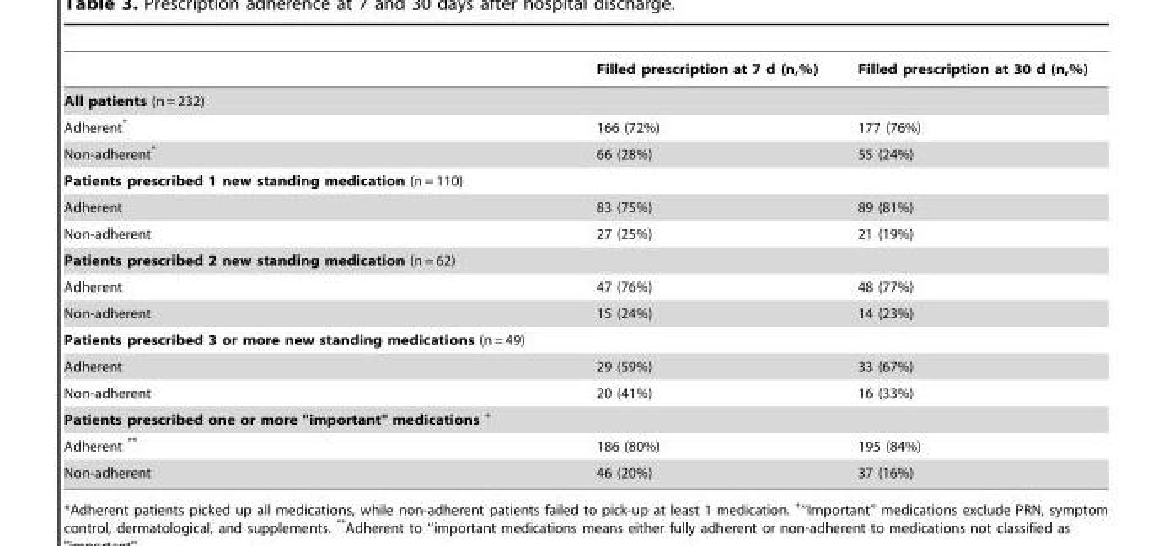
<table><thead><tr><td></td><td>Filled prescription at 7 d (n,%)</td><td>Filled prescription at 30 d (n,%)</td></tr></thead><tbody><tr><td colspan="3">All patients (n = 232)</td></tr><tr><td>Adherent*</td><td>166 (72%)</td><td>177 (76%)</td></tr><tr><td>Non-adherent*</td><td>66 (28%)</td><td>55 (24%)</td></tr><tr><td colspan="3">Patients prescribed 1 new standing medication (n = 110)</td></tr><tr><td>Adherent</td><td>83 (75%)</td><td>89 (81%)</td></tr><tr><td>Non-adherent</td><td>27 (25%)</td><td>21 (19%)</td></tr><tr><td colspan="3">Patients prescribed 2 new standing medication (n = 62)</td></tr><tr><td>Adherent</td><td>47 (76%)</td><td>48 (77%)</td></tr><tr><td>Non-adherent</td><td>15 (24%)</td><td>14 (23%)</td></tr><tr><td colspan="3">Patients prescribed 3 or more new standing medications (n = 49)</td></tr><tr><td>Adherent</td><td>29 (59%)</td><td>33 (67%)</td></tr><tr><td>Non-adherent</td><td>20 (41%)</td><td>16 (33%)</td></tr><tr><td colspan="3">Patients prescribed one or more &quot;important&quot; medications <sup>+</sup></td></tr><tr><td>Adherent **</td><td>186 (80%)</td><td>195 (84%)</td></tr><tr><td>Non-adherent</td><td>46 (20%)</td><td>37 (16%)</td></tr></tbody></table>